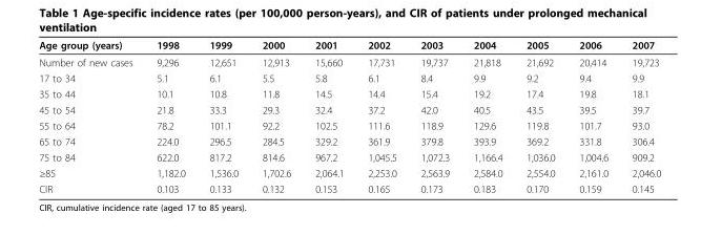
<table><thead><tr><td>Age group (years)</td><td>1998</td><td>1999</td><td>2000</td><td>2001</td><td>2002</td><td>2003</td><td>2004</td><td>2005</td><td>2006</td><td>2007</td></tr></thead><tbody><tr><td>Number of new cases</td><td>9,296</td><td>12,651</td><td>12,913</td><td>15,660</td><td>17,731</td><td>19,737</td><td>21,818</td><td>21,692</td><td>20,414</td><td>19,723</td></tr><tr><td>17 to 34</td><td>5.1</td><td>6.1</td><td>5.5</td><td>5.8</td><td>6.1</td><td>8.4</td><td>9.9</td><td>9.2</td><td>9.4</td><td>9.9</td></tr><tr><td>35 to 44</td><td>10.1</td><td>10.8</td><td>11.8</td><td>14.5</td><td>14.4</td><td>15.4</td><td>19.2</td><td>17.4</td><td>19.8</td><td>18.1</td></tr><tr><td>45 to 54</td><td>21.8</td><td>33.3</td><td>29.3</td><td>32.4</td><td>37.2</td><td>42.0</td><td>40.5</td><td>43.5</td><td>39.5</td><td>39.7</td></tr><tr><td>55 to 64</td><td>78.2</td><td>101.1</td><td>92.2</td><td>102.5</td><td>111.6</td><td>118.9</td><td>129.6</td><td>119.8</td><td>101.7</td><td>93.0</td></tr><tr><td>65 to 74</td><td>224.0</td><td>296.5</td><td>284.5</td><td>329.2</td><td>361.9</td><td>379.8</td><td>393.9</td><td>369.2</td><td>331.8</td><td>306.4</td></tr><tr><td>75 to 84</td><td>622.0</td><td>817.2</td><td>814.6</td><td>967.2</td><td>1,045.5</td><td>1,072.3</td><td>1,166.4</td><td>1,036.0</td><td>1,004.6</td><td>909.2</td></tr><tr><td>≥85</td><td>1,182.0</td><td>1,536.0</td><td>1,702.6</td><td>2,064.1</td><td>2,253.0</td><td>2,563.9</td><td>2,584.0</td><td>2,554.0</td><td>2,161.0</td><td>2,046.0</td></tr><tr><td>CIR</td><td>0.103</td><td>0.133</td><td>0.132</td><td>0.153</td><td>0.165</td><td>0.173</td><td>0.183</td><td>0.170</td><td>0.159</td><td>0.145</td></tr></tbody></table>